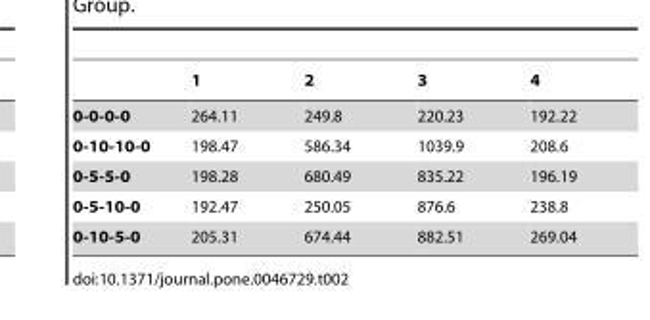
<table><thead><tr><td></td><td>1</td><td>2</td><td>3</td><td>4</td></tr></thead><tbody><tr><td>0-0-0-0</td><td>264.11</td><td>249.8</td><td>220.23</td><td>192.22</td></tr><tr><td>0-10-10-0</td><td>198.47</td><td>586.34</td><td>1039.9</td><td>208.6</td></tr><tr><td>0-5-5-0</td><td>198.28</td><td>680.49</td><td>835.22</td><td>196.19</td></tr><tr><td>0-5-10-0</td><td>192.47</td><td>250.05</td><td>876.6</td><td>238.8</td></tr><tr><td>0-10-5-0</td><td>205.31</td><td>674.44</td><td>882.51</td><td>269.04</td></tr></tbody></table>